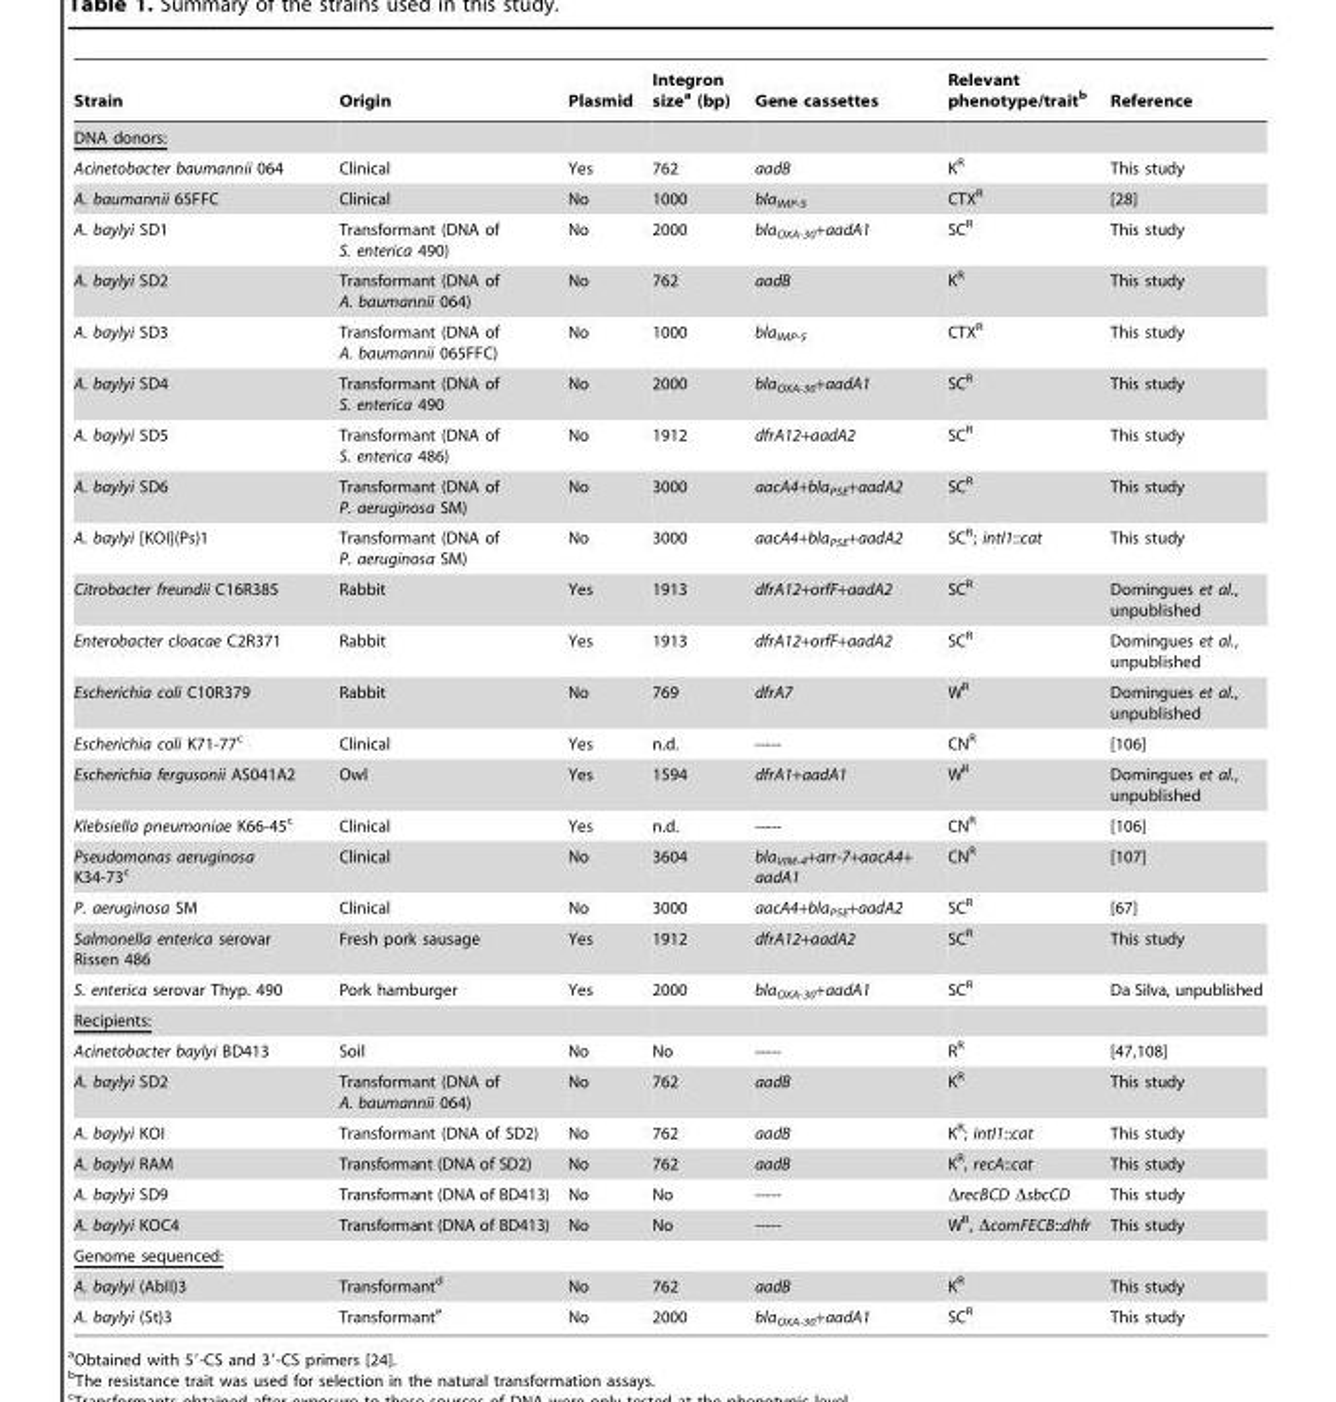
<table><thead><tr><td>Strain</td><td>Origin</td><td>Plasmid</td><td>Integron size<sup>a</sup> (bp)</td><td>Gene cassettes</td><td>Relevant phenotype/trait<sup>b</sup></td><td>Reference</td></tr></thead><tbody><tr><td colspan="7">DNA donors:</td></tr><tr><td>Acinetobacter baumannii 064</td><td>Clinical</td><td>Yes</td><td>762</td><td>aadB</td><td>K<sup>R</sup></td><td>This study</td></tr><tr><td>A. baumannii 65FFC</td><td>Clinical</td><td>No</td><td>1000</td><td>bla<sub>IMP-5</sub></td><td>CTX<sup>R</sup></td><td>[28]</td></tr><tr><td>A. baylyi SD1</td><td>Transformant (DNA of S. enterica 490)</td><td>No</td><td>2000</td><td>bla<sub>OXA-30</sub>+aadA1</td><td>SC<sup>R</sup></td><td>This study</td></tr><tr><td>A. baylyi SD2</td><td>Transformant (DNA of A. baumannii 064)</td><td>No</td><td>762</td><td>aadB</td><td>K<sup>R</sup></td><td>This study</td></tr><tr><td>A. baylyi SD3</td><td>Transformant (DNA of A. baumannii 065FFC)</td><td>No</td><td>1000</td><td>bla<sub>IMP-5</sub></td><td>CTX<sup>R</sup></td><td>This study</td></tr><tr><td>A. baylyi SD4</td><td>Transformant (DNA of S. enterica 490</td><td>No</td><td>2000</td><td>bla<sub>OXA-30</sub>+aadA1</td><td>SC<sup>R</sup></td><td>This study</td></tr><tr><td>A. baylyi SD5</td><td>Transformant (DNA of S. enterica 486)</td><td>No</td><td>1912</td><td>dfrA12+aadA2</td><td>SC<sup>R</sup></td><td>This study</td></tr><tr><td>A. baylyi SD6</td><td>Transformant (DNA of P. aeruginosa SM)</td><td>No</td><td>3000</td><td>aacA4+bla<sub>PSE</sub>+aadA2</td><td>SC<sup>R</sup></td><td>This study</td></tr><tr><td>A. baylyi [KOI](Ps)1</td><td>Transformant (DNA of P. aeruginosa SM)</td><td>No</td><td>3000</td><td>aacA4+bla<sub>PSE</sub>+aadA2</td><td>SC<sup>R</sup>; intI1::cat</td><td>This study</td></tr><tr><td>Citrobacter freundii C16R385</td><td>Rabbit</td><td>Yes</td><td>1913</td><td>dfrA12+orfF+aadA2</td><td>SC<sup>R</sup></td><td>Domingues et al., unpublished</td></tr><tr><td>Enterobacter cloacae C2R371</td><td>Rabbit</td><td>Yes</td><td>1913</td><td>dfrA12+orfF+aadA2</td><td>SC<sup>R</sup></td><td>Domingues et al., unpublished</td></tr><tr><td>Escherichia coli C10R379</td><td>Rabbit</td><td>No</td><td>769</td><td>dfrA7</td><td>W<sup>R</sup></td><td>Domingues et al., unpublished</td></tr><tr><td>Escherichia coli K71-77<sup>c</sup></td><td>Clinical</td><td>Yes</td><td>n.d.</td><td>-----</td><td>CN<sup>R</sup></td><td>[106]</td></tr><tr><td>Escherichia fergusonii AS041A2</td><td>Owl</td><td>Yes</td><td>1594</td><td>dfrA1+aadA1</td><td>W<sup>R</sup></td><td>Domingues et al., unpublished</td></tr><tr><td>Klebsiella pneumoniae K66-45<sup>c</sup></td><td>Clinical</td><td>Yes</td><td>n.d.</td><td>-----</td><td>CN<sup>R</sup></td><td>[106]</td></tr><tr><td>Pseudomonas aeruginosa K34-73<sup>c</sup></td><td>Clinical</td><td>No</td><td>3604</td><td>bla<sub>VIM-4</sub>+arr-7+aacA4+ aadA1</td><td>CN<sup>R</sup></td><td>[107]</td></tr><tr><td>P. aeruginosa SM</td><td>Clinical</td><td>No</td><td>3000</td><td>aacA4+bla<sub>PSE</sub>+aadA2</td><td>SC<sup>R</sup></td><td>[67]</td></tr><tr><td>Salmonella enterica serovar Rissen 486</td><td>Fresh pork sausage</td><td>Yes</td><td>1912</td><td>dfrA12+aadA2</td><td>SC<sup>R</sup></td><td>This study</td></tr><tr><td>S. enterica serovar Thyp. 490</td><td>Pork hamburger</td><td>Yes</td><td>2000</td><td>bla<sub>OXA-30</sub>+aadA1</td><td>SC<sup>R</sup></td><td>Da Silva, unpublished</td></tr><tr><td colspan="7">Recipients:</td></tr><tr><td>Acinetobacter baylyi BD413</td><td>Soil</td><td>No</td><td>No</td><td>-----</td><td>R<sup>R</sup></td><td>[47,108]</td></tr><tr><td>A. baylyi SD2</td><td>Transformant (DNA of A. baumannii 064)</td><td>No</td><td>762</td><td>aadB</td><td>K<sup>R</sup></td><td>This study</td></tr><tr><td>A. baylyi KOI</td><td>Transformant (DNA of SD2)</td><td>No</td><td>762</td><td>aadB</td><td>K<sup>R</sup>; intI1::cat</td><td>This study</td></tr><tr><td>A. baylyi RAM</td><td>Transformant (DNA of SD2)</td><td>No</td><td>762</td><td>aadB</td><td>K<sup>R</sup>, recA::cat</td><td>This study</td></tr><tr><td>A. baylyi SD9</td><td>Transformant (DNA of BD413)</td><td>No</td><td>No</td><td>-----</td><td>ΔrecBCD ΔsbcCD</td><td>This study</td></tr><tr><td>A. baylyi KOC4</td><td>Transformant (DNA of BD413)</td><td>No</td><td>No</td><td>-----</td><td>W<sup>R</sup>, ΔcomFECB::dhfr</td><td>This study</td></tr><tr><td colspan="7">Genome sequenced:</td></tr><tr><td>A. baylyi (AbII)3</td><td>Transformant<sup>d</sup></td><td>No</td><td>762</td><td>aadB</td><td>K<sup>R</sup></td><td>This study</td></tr><tr><td>A. baylyi (St)3</td><td>Transformant<sup>e</sup></td><td>No</td><td>2000</td><td>bla<sub>OXA-30</sub>+aadA1</td><td>SC<sup>R</sup></td><td>This study</td></tr></tbody></table>